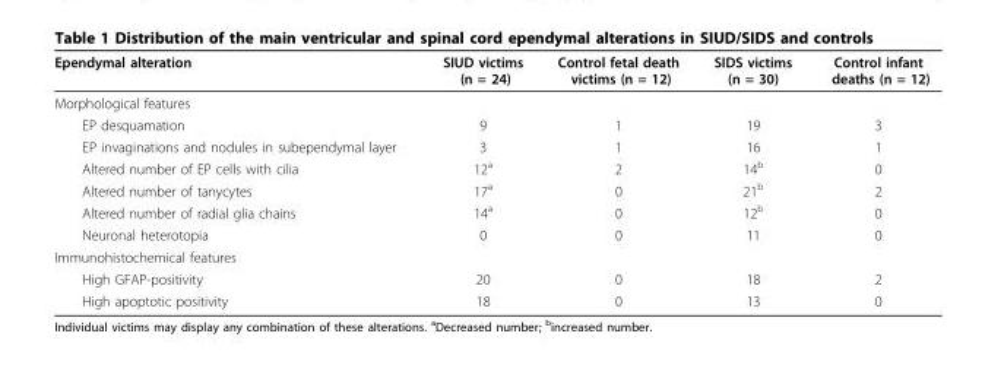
<table><thead><tr><td>Ependymal alteration</td><td>SIUD victims (n = 24)</td><td>Control fetal death victims (n = 12)</td><td>SIDS victims (n = 30)</td><td>Control infant deaths (n = 12)</td></tr></thead><tbody><tr><td colspan="5">Morphological features</td></tr><tr><td>EP desquamation</td><td>9</td><td>1</td><td>19</td><td>3</td></tr><tr><td>EP invaginations and nodules in subependymal layer</td><td>3</td><td>1</td><td>16</td><td>1</td></tr><tr><td>Altered number of EP cells with cilia</td><td>12<sup>a</sup></td><td>2</td><td>14<sup>b</sup></td><td>0</td></tr><tr><td>Altered number of tanycytes</td><td>17<sup>a</sup></td><td>0</td><td>21<sup>b</sup></td><td>2</td></tr><tr><td>Altered number of radial glia chains</td><td>14<sup>a</sup></td><td>0</td><td>12<sup>b</sup></td><td>0</td></tr><tr><td>Neuronal heterotopia</td><td>0</td><td>0</td><td>11</td><td>0</td></tr><tr><td colspan="5">Immunohistochemical features</td></tr><tr><td>High GFAP-positivity</td><td>20</td><td>0</td><td>18</td><td>2</td></tr><tr><td>High apoptotic positivity</td><td>18</td><td>0</td><td>13</td><td>0</td></tr></tbody></table>